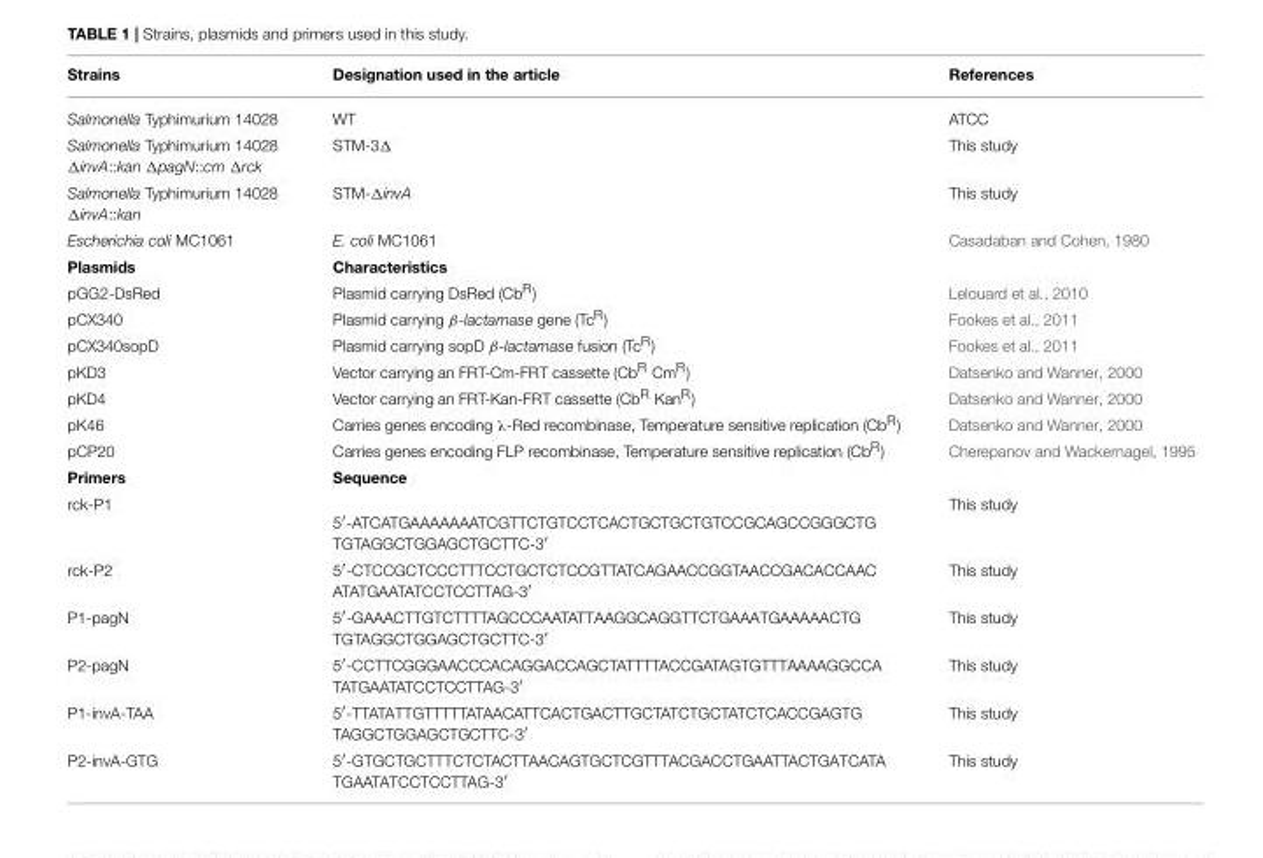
<table><thead><tr><td>Strains</td><td>Designation used in the article</td><td>References</td></tr></thead><tbody><tr><td>Salmonella Typhimurium 14028</td><td>WT</td><td>ATCC</td></tr><tr><td>Salmonella Typhimurium 14028 ΔinvA::kan ΔpagN::cm Δrck</td><td>STM-3Δ</td><td>This study</td></tr><tr><td>Salmonella Typhimurium 14028 ΔinvA::kan</td><td>STM-ΔinvA</td><td>This study</td></tr><tr><td>Escherichia coli MC1061</td><td>E. coli MC1061</td><td>Casadaban and Cohen, 1980</td></tr><tr><td>Plasmids</td><td>Characteristics</td><td></td></tr><tr><td>pGG2-DsRed</td><td>Plasmid carrying DsRed (Cb<sup>R</sup>)</td><td>Lelouard et al., 2010</td></tr><tr><td>pCX340</td><td>Plasmid carrying β-lactamase gene (Tc<sup>R</sup>)</td><td>Fookes et al., 2011</td></tr><tr><td>pCX340sopD</td><td>Plasmid carrying sopD β-lactamase fusion (Tc<sup>R</sup>)</td><td>Fookes et al., 2011</td></tr><tr><td>pKD3</td><td>Vector carrying an FRT-Cm-FRT cassette (Cb<sup>R</sup> Cm<sup>R</sup>)</td><td>Datsenko and Wanner, 2000</td></tr><tr><td>pKD4</td><td>Vector carrying an FRT-Kan-FRT cassette (Cb<sup>R</sup> Kan<sup>R</sup>)</td><td>Datsenko and Wanner, 2000</td></tr><tr><td>pK46</td><td>Carries genes encoding λ-Red recombinase, Temperature sensitive replication (Cb<sup>R</sup>)</td><td>Datsenko and Wanner, 2000</td></tr><tr><td>pCP20</td><td>Carries genes encoding FLP recombinase, Temperature sensitive replication (Cb<sup>R</sup>)</td><td>Cherepanov and Wackernagel, 1995</td></tr><tr><td>Primers</td><td>Sequence</td><td></td></tr><tr><td>rck-P1</td><td>5′-ATCATGAAAAAAATCGTTCTGTCCTCACTGCTGCTGTCCGCAGCCGGGCTG TGTAGGCTGGAGCTGCTTC-3′</td><td>This study</td></tr><tr><td>rck-P2</td><td>5′-CTCCGCTCCCTTTCCTGCTCTCCGTTATCAGAACCGGTAACCGACACCAAC ATATGAATATCCTCCTTAG-3′</td><td>This study</td></tr><tr><td>P1-pagN</td><td>5′-GAAACTTGTCTTTTAGCCCAATATTAAGGCAGGTTCTGAAATGAAAAACTG TGTAGGCTGGAGCTGCTTC-3′</td><td>This study</td></tr><tr><td>P2-pagN</td><td>5′-CCTTCGGGAACCCACAGGACCAGCTATTTTACCGATAGTGTTTAAAAGGCCA TATGAATATCCTCCTTAG-3′</td><td>This study</td></tr><tr><td>P1-invA-TAA</td><td>5′-TTATATTGTTTTTATAACATTCACTGACTTGCTATCTGCTATCTCACCGAGTG TAGGCTGGAGCTGCTTC-3′</td><td>This study</td></tr><tr><td>P2-invA-GTG</td><td>5′-GTGCTGCTTTCTCTACTTAACAGTGCTCGTTTACGACCTGAATTACTGATCATA TGAATATCCTCCTTAG-3′</td><td>This study</td></tr></tbody></table>